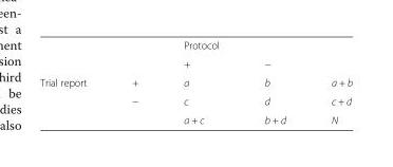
<table><thead><tr><td></td><td></td><td>Protocol</td><td></td><td></td></tr></thead><tbody><tr><td></td><td></td><td>+</td><td>−</td><td></td></tr><tr><td rowspan="3">Trial report</td><td>+</td><td>a</td><td>b</td><td>a + b</td></tr><tr><td>−</td><td>c</td><td>d</td><td>c + d</td></tr><tr><td></td><td>a + c</td><td>b + d</td><td>N</td></tr></tbody></table>